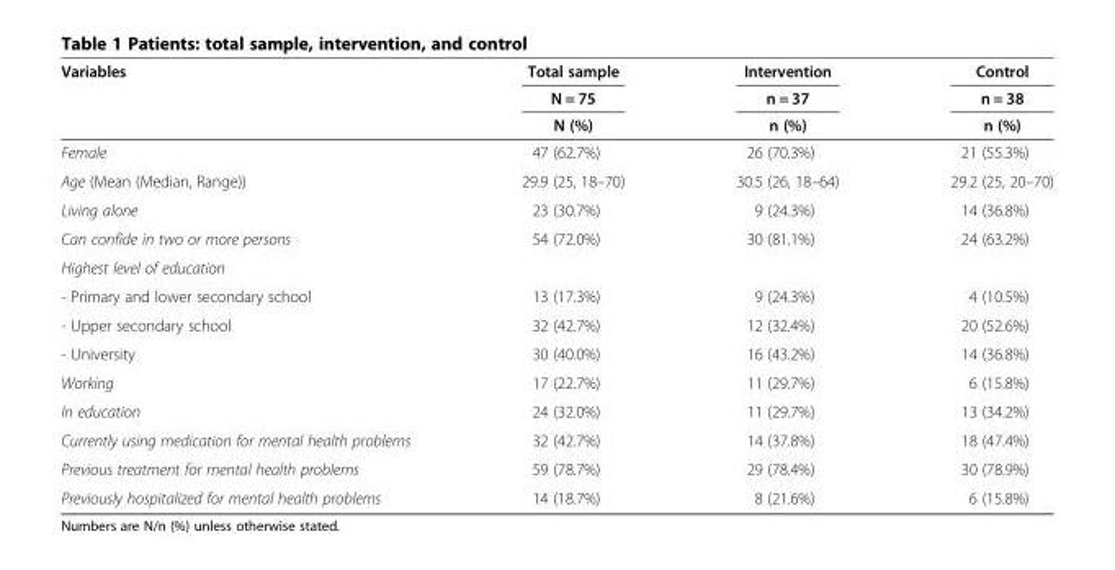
<table><thead><tr><td rowspan="3">Variables</td><td rowspan="3">Total sample N = 75 N (%)</td><td rowspan="3">Intervention n = 37 n (%)</td><td rowspan="3">Control n = 38 n (%)</td></tr><tr></tr><tr></tr></thead><tbody><tr><td>Female</td><td>47 (62.7%)</td><td>26 (70.3%)</td><td>21 (55.3%)</td></tr><tr><td>Age (Mean (Median, Range))</td><td>29.9 (25, 18–70)</td><td>30.5 (26, 18–64)</td><td>29.2 (25, 20–70)</td></tr><tr><td>Living alone</td><td>23 (30.7%)</td><td>9 (24.3%)</td><td>14 (36.8%)</td></tr><tr><td>Can confide in two or more persons</td><td>54 (72.0%)</td><td>30 (81.1%)</td><td>24 (63.2%)</td></tr><tr><td colspan="4">Highest level of education</td></tr><tr><td>- Primary and lower secondary school</td><td>13 (17.3%)</td><td>9 (24.3%)</td><td>4 (10.5%)</td></tr><tr><td>- Upper secondary school</td><td>32 (42.7%)</td><td>12 (32.4%)</td><td>20 (52.6%)</td></tr><tr><td>- University</td><td>30 (40.0%)</td><td>16 (43.2%)</td><td>14 (36.8%)</td></tr><tr><td>Working</td><td>17 (22.7%)</td><td>11 (29.7%)</td><td>6 (15.8%)</td></tr><tr><td>In education</td><td>24 (32.0%)</td><td>11 (29.7%)</td><td>13 (34.2%)</td></tr><tr><td>Currently using medication for mental health problems</td><td>32 (42.7%)</td><td>14 (37.8%)</td><td>18 (47.4%)</td></tr><tr><td>Previous treatment for mental health problems</td><td>59 (78.7%)</td><td>29 (78.4%)</td><td>30 (78.9%)</td></tr><tr><td>Previously hospitalized for mental health problems</td><td>14 (18.7%)</td><td>8 (21.6%)</td><td>6 (15.8%)</td></tr></tbody></table>